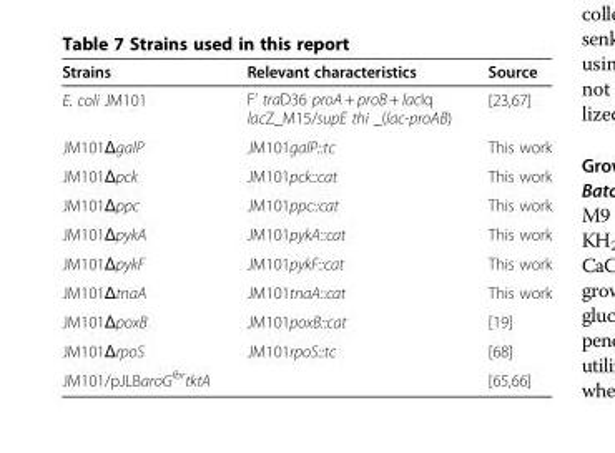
<table><thead><tr><td>Strains</td><td>Relevant characteristics</td><td>Source</td></tr></thead><tbody><tr><td>E. coli JM101</td><td>F’ traD36 proA + proB + lacIq lacZ_M15/supE thi _(lac-proAB)</td><td>[23,67]</td></tr><tr><td>JM101ΔgalP</td><td>JM101galP::tc</td><td>This work</td></tr><tr><td>JM101Δpck</td><td>JM101pck::cat</td><td>This work</td></tr><tr><td>JM101Δppc</td><td>JM101ppc::cat</td><td>This work</td></tr><tr><td>JM101ΔpykA</td><td>JM101pykA::cat</td><td>This work</td></tr><tr><td>JM101ΔpykF</td><td>JM101pykF::cat</td><td>This work</td></tr><tr><td>JM101ΔtnaA</td><td>JM101tnaA::cat</td><td>This work</td></tr><tr><td>JM101ΔpoxB</td><td>JM101poxB::cat</td><td>[19]</td></tr><tr><td>JM101ΔrpoS</td><td>JM101rpoS::tc</td><td>[68]</td></tr><tr><td>JM101/pJLBaroG<sup>fbr</sup>tktA</td><td></td><td>[65,66]</td></tr></tbody></table>